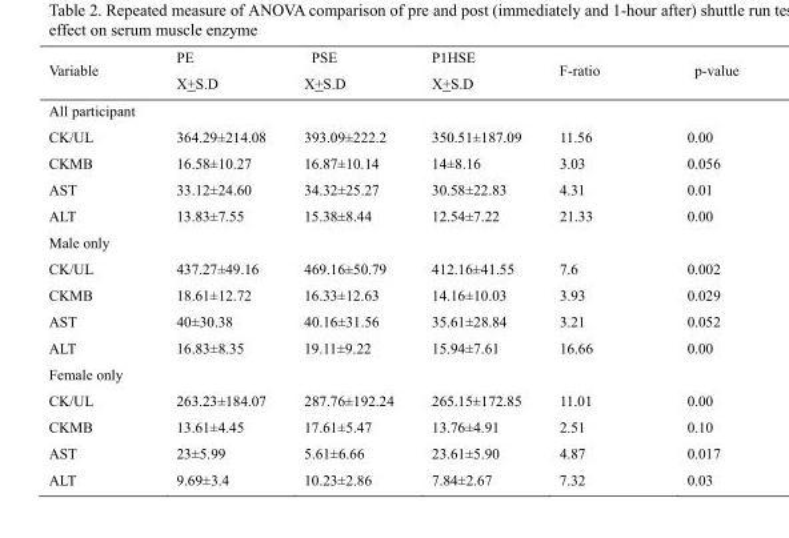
<table><thead><tr><td rowspan="2">Variable</td><td rowspan="2">PE X+S.D</td><td rowspan="2">PSE X+S.D</td><td rowspan="2">P1HSE X+S.D</td><td rowspan="2">F-ratio</td><td rowspan="2">p-value</td></tr><tr></tr></thead><tbody><tr><td colspan="6">All participant</td></tr><tr><td>CK/UL</td><td>364.29±214.08</td><td>393.09±222.2</td><td>350.51±187.09</td><td>11.56</td><td>0.00</td></tr><tr><td>CKMB</td><td>16.58±10.27</td><td>16.87±10.14</td><td>14±8.16</td><td>3.03</td><td>0.056</td></tr><tr><td>AST</td><td>33.12±24.60</td><td>34.32±25.27</td><td>30.58±22.83</td><td>4.31</td><td>0.01</td></tr><tr><td>ALT</td><td>13.83±7.55</td><td>15.38±8.44</td><td>12.54±7.22</td><td>21.33</td><td>0.00</td></tr><tr><td colspan="6">Male only</td></tr><tr><td>CK/UL</td><td>437.27±49.16</td><td>469.16±50.79</td><td>412.16±41.55</td><td>7.6</td><td>0.002</td></tr><tr><td>CKMB</td><td>18.61±12.72</td><td>16.33±12.63</td><td>14.16±10.03</td><td>3.93</td><td>0.029</td></tr><tr><td>AST</td><td>40±30.38</td><td>40.16±31.56</td><td>35.61±28.84</td><td>3.21</td><td>0.052</td></tr><tr><td>ALT</td><td>16.83±8.35</td><td>19.11±9.22</td><td>15.94±7.61</td><td>16.66</td><td>0.00</td></tr><tr><td colspan="6">Female only</td></tr><tr><td>CK/UL</td><td>263.23±184.07</td><td>287.76±192.24</td><td>265.15±172.85</td><td>11.01</td><td>0.00</td></tr><tr><td>CKMB</td><td>13.61±4.45</td><td>17.61±5.47</td><td>13.76±4.91</td><td>2.51</td><td>0.10</td></tr><tr><td>AST</td><td>23±5.99</td><td>5.61±6.66</td><td>23.61±5.90</td><td>4.87</td><td>0.017</td></tr><tr><td>ALT</td><td>9.69±3.4</td><td>10.23±2.86</td><td>7.84±2.67</td><td>7.32</td><td>0.03</td></tr></tbody></table>